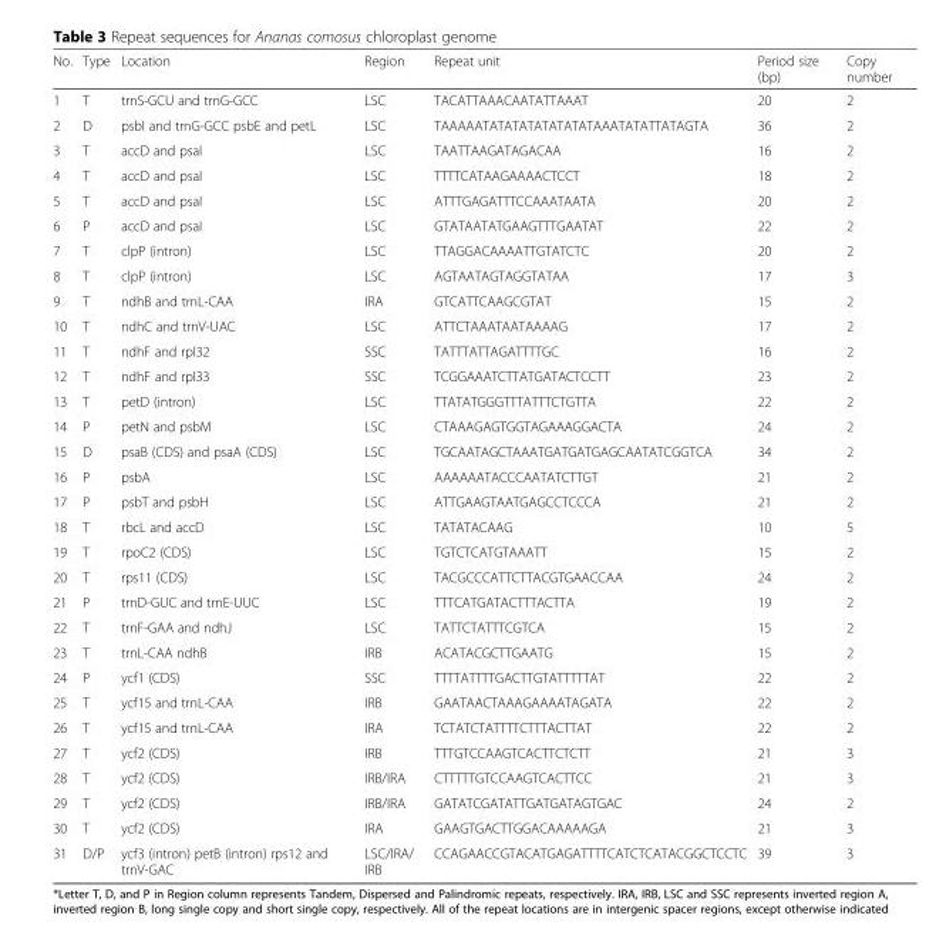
<table><thead><tr><td>No.</td><td>Type</td><td>Location</td><td>Region</td><td>Repeat unit</td><td>Period size (bp)</td><td>Copy number</td></tr></thead><tbody><tr><td>1</td><td>T</td><td>trnS-GCU and trnG-GCC</td><td>LSC</td><td>TACATTAAACAATATTAAAT</td><td>20</td><td>2</td></tr><tr><td>2</td><td>D</td><td>psbI and trnG-GCC psbE and petL</td><td>LSC</td><td>TAAAAATATATATATATATATAAATATATTATAGTA</td><td>36</td><td>2</td></tr><tr><td>3</td><td>T</td><td>accD and psaI</td><td>LSC</td><td>TAATTAAGATAGACAA</td><td>16</td><td>2</td></tr><tr><td>4</td><td>T</td><td>accD and psaI</td><td>LSC</td><td>TTTTCATAAGAAAACTCCT</td><td>18</td><td>2</td></tr><tr><td>5</td><td>T</td><td>accD and psaI</td><td>LSC</td><td>ATTTGAGATTTCCAAATAATA</td><td>20</td><td>2</td></tr><tr><td>6</td><td>P</td><td>accD and psaI</td><td>LSC</td><td>GTATAATATGAAGTTTGAATAT</td><td>22</td><td>2</td></tr><tr><td>7</td><td>T</td><td>clpP (intron)</td><td>LSC</td><td>TTAGGACAAAATTGTATCTC</td><td>20</td><td>2</td></tr><tr><td>8</td><td>T</td><td>clpP (intron)</td><td>LSC</td><td>AGTAATAGTAGGTATAA</td><td>17</td><td>3</td></tr><tr><td>9</td><td>T</td><td>ndhB and trnL-CAA</td><td>IRA</td><td>GTCATTCAAGCGTAT</td><td>15</td><td>2</td></tr><tr><td>10</td><td>T</td><td>ndhC and trnV-UAC</td><td>LSC</td><td>ATTCTAAATAATAAAAG</td><td>17</td><td>2</td></tr><tr><td>11</td><td>T</td><td>ndhF and rpl32</td><td>SSC</td><td>TATTTATTAGATTTTGC</td><td>16</td><td>2</td></tr><tr><td>12</td><td>T</td><td>ndhF and rpl33</td><td>SSC</td><td>TCGGAAATCTTATGATACTCCTT</td><td>23</td><td>2</td></tr><tr><td>13</td><td>T</td><td>petD (intron)</td><td>LSC</td><td>TTATATGGGTTTATTTCTGTTA</td><td>22</td><td>2</td></tr><tr><td>14</td><td>P</td><td>petN and psbM</td><td>LSC</td><td>CTAAAGAGTGGTAGAAAGGACTA</td><td>24</td><td>2</td></tr><tr><td>15</td><td>D</td><td>psaB (CDS) and psaA (CDS)</td><td>LSC</td><td>TGCAATAGCTAAATGATGATGAGCAATATCGGTCA</td><td>34</td><td>2</td></tr><tr><td>16</td><td>P</td><td>psbA</td><td>LSC</td><td>AAAAAATACCCAATATCTTGT</td><td>21</td><td>2</td></tr><tr><td>17</td><td>P</td><td>psbT and psbH</td><td>LSC</td><td>ATTGAAGTAATGAGCCTCCCA</td><td>21</td><td>2</td></tr><tr><td>18</td><td>T</td><td>rbcL and accD</td><td>LSC</td><td>TATATACAAG</td><td>10</td><td>5</td></tr><tr><td>19</td><td>T</td><td>rpoC2 (CDS)</td><td>LSC</td><td>TGTCTCATGTAAATT</td><td>15</td><td>2</td></tr><tr><td>20</td><td>T</td><td>rps11 (CDS)</td><td>LSC</td><td>TACGCCCATTCTTACGTGAACCAA</td><td>24</td><td>2</td></tr><tr><td>21</td><td>P</td><td>trnD-GUC and trnE-UUC</td><td>LSC</td><td>TTTCATGATACTTTACTTA</td><td>19</td><td>2</td></tr><tr><td>22</td><td>T</td><td>trnF-GAA and ndhJ</td><td>LSC</td><td>TATTCTATTTCGTCA</td><td>15</td><td>2</td></tr><tr><td>23</td><td>T</td><td>trnL-CAA ndhB</td><td>IRB</td><td>ACATACGCTTGAATG</td><td>15</td><td>2</td></tr><tr><td>24</td><td>P</td><td>ycf1 (CDS)</td><td>SSC</td><td>TTTTATTTTGACTTGTATTTTTAT</td><td>22</td><td>2</td></tr><tr><td>25</td><td>T</td><td>ycf15 and trnL-CAA</td><td>IRB</td><td>GAATAACTAAAGAAAATAGATA</td><td>22</td><td>2</td></tr><tr><td>26</td><td>T</td><td>ycf15 and trnL-CAA</td><td>IRA</td><td>TCTATCTATTTTCTTTACTTAT</td><td>22</td><td>2</td></tr><tr><td>27</td><td>T</td><td>ycf2 (CDS)</td><td>IRB</td><td>TTTGTCCAAGTCACTTCTCTT</td><td>21</td><td>3</td></tr><tr><td>28</td><td>T</td><td>ycf2 (CDS)</td><td>IRB/IRA</td><td>CTTTTTGTCCAAGTCACTTCC</td><td>21</td><td>3</td></tr><tr><td>29</td><td>T</td><td>ycf2 (CDS)</td><td>IRB/IRA</td><td>GATATCGATATTGATGATAGTGAC</td><td>24</td><td>2</td></tr><tr><td>30</td><td>T</td><td>ycf2 (CDS)</td><td>IRA</td><td>GAAGTGACTTGGACAAAAAGA</td><td>21</td><td>3</td></tr><tr><td>31</td><td>D/P</td><td>ycf3 (intron) petB (intron) rps12 and trnV-GAC</td><td>LSC/IRA/ IRB</td><td>CCAGAACCGTACATGAGATTTTCATCTCATACGGCTCCTC</td><td>39</td><td>3</td></tr></tbody></table>